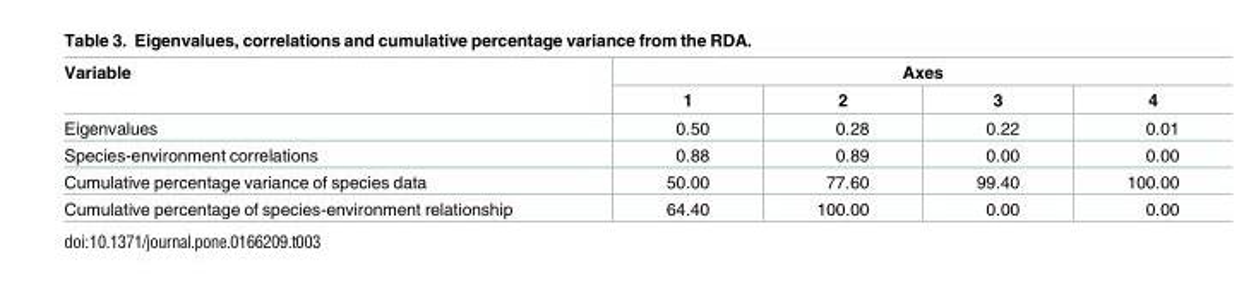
<table><thead><tr><td rowspan="2">Variable</td><td colspan="4">Axes</td></tr><tr><td>1</td><td>2</td><td>3</td><td>4</td></tr></thead><tbody><tr><td>Eigenvalues</td><td>0.50</td><td>0.28</td><td>0.22</td><td>0.01</td></tr><tr><td>Species-environment correlations</td><td>0.88</td><td>0.89</td><td>0.00</td><td>0.00</td></tr><tr><td>Cumulative percentage variance of species data</td><td>50.00</td><td>77.60</td><td>99.40</td><td>100.00</td></tr><tr><td>Cumulative percentage of species-environment relationship</td><td>64.40</td><td>100.00</td><td>0.00</td><td>0.00</td></tr></tbody></table>